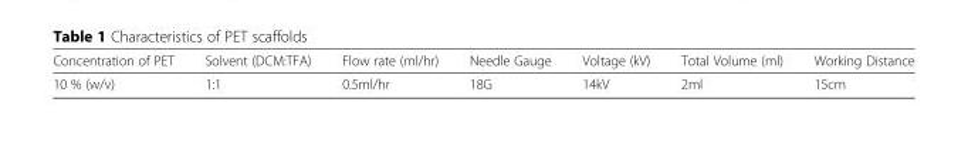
<table><thead><tr><td>Concentration of PET</td><td>Solvent (DCM:TFA)</td><td>Flow rate (ml/hr)</td><td>Needle Gauge</td><td>Voltage (kV)</td><td>Total Volume (ml)</td><td>Working Distance</td></tr></thead><tbody><tr><td>10 % (w/v)</td><td>1:1</td><td>0.5ml/hr</td><td>18G</td><td>14kV</td><td>2ml</td><td>15cm</td></tr></tbody></table>